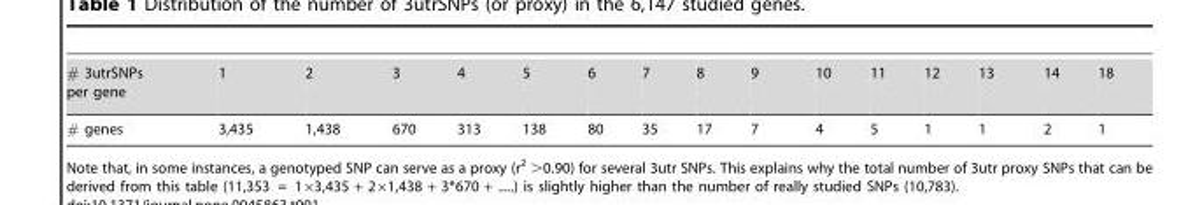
<table><tbody><tr><td># 3utrSNPs per gene</td><td>1</td><td>2</td><td>3</td><td>4</td><td>5</td><td>6</td><td>7</td><td>8</td><td>9</td><td>10</td><td>11</td><td>12</td><td>13</td><td>14</td><td>18</td></tr><tr><td># genes</td><td>3,435</td><td>1,438</td><td>670</td><td>313</td><td>138</td><td>80</td><td>35</td><td>17</td><td>7</td><td>4</td><td>5</td><td>1</td><td>1</td><td>2</td><td>1</td></tr></tbody></table>